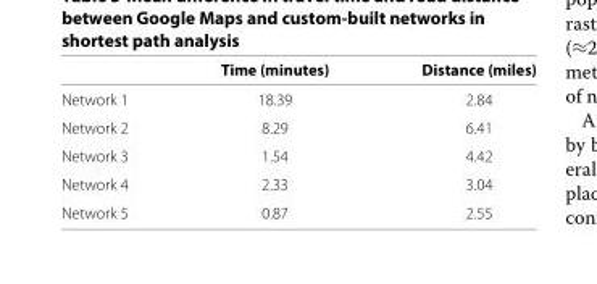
<table><thead><tr><td></td><td>Time (minutes)</td><td>Distance (miles)</td></tr></thead><tbody><tr><td>Network 1</td><td>18.39</td><td>2.84</td></tr><tr><td>Network 2</td><td>8.29</td><td>6.41</td></tr><tr><td>Network 3</td><td>1.54</td><td>4.42</td></tr><tr><td>Network 4</td><td>2.33</td><td>3.04</td></tr><tr><td>Network 5</td><td>0.87</td><td>2.55</td></tr></tbody></table>